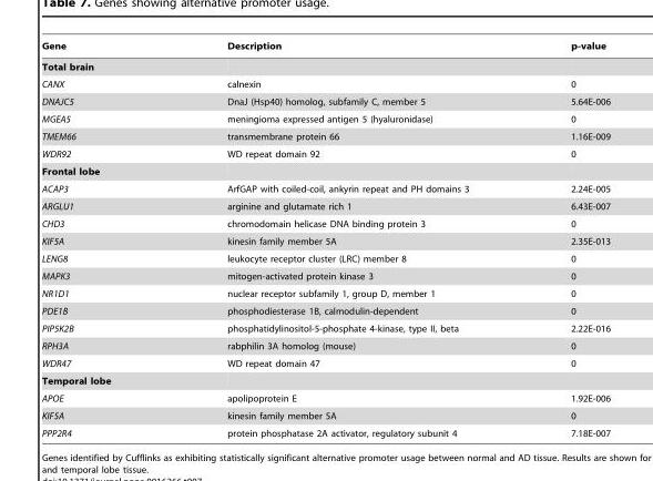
<table><thead><tr><td>Gene</td><td>Description</td><td>p-value</td></tr></thead><tbody><tr><td colspan="3">Total brain</td></tr><tr><td>CANX</td><td>calnexin</td><td>0</td></tr><tr><td>DNAJC5</td><td>DnaJ (Hsp40) homolog, subfamily C, member 5</td><td>5.64E-006</td></tr><tr><td>MGEA5</td><td>meningioma expressed antigen 5 (hyaluronidase)</td><td>0</td></tr><tr><td>TMEM66</td><td>transmembrane protein 66</td><td>1.16E-009</td></tr><tr><td>WDR92</td><td>WD repeat domain 92</td><td>0</td></tr><tr><td colspan="3">Frontal lobe</td></tr><tr><td>ACAP3</td><td>ArfGAP with coiled-coil, ankyrin repeat and PH domains 3</td><td>2.24E-005</td></tr><tr><td>ARGLU1</td><td>arginine and glutamate rich 1</td><td>6.43E-007</td></tr><tr><td>CHD3</td><td>chromodomain helicase DNA binding protein 3</td><td>0</td></tr><tr><td>KIF5A</td><td>kinesin family member 5A</td><td>2.35E-013</td></tr><tr><td>LENG8</td><td>leukocyte receptor cluster (LRC) member 8</td><td>0</td></tr><tr><td>MAPK3</td><td>mitogen-activated protein kinase 3</td><td>0</td></tr><tr><td>NR1D1</td><td>nuclear receptor subfamily 1, group D, member 1</td><td>0</td></tr><tr><td>PDE1B</td><td>phosphodiesterase 1B, calmodulin-dependent</td><td>0</td></tr><tr><td>PIP5K2B</td><td>phosphatidylinositol-5-phosphate 4-kinase, type II, beta</td><td>2.22E-016</td></tr><tr><td>RPH3A</td><td>rabphilin 3A homolog (mouse)</td><td>0</td></tr><tr><td>WDR47</td><td>WD repeat domain 47</td><td>0</td></tr><tr><td colspan="3">Temporal lobe</td></tr><tr><td>APOE</td><td>apolipoprotein E</td><td>1.92E-006</td></tr><tr><td>KIF5A</td><td>kinesin family member 5A</td><td>0</td></tr><tr><td>PPP2R4</td><td>protein phosphatase 2A activator, regulatory subunit 4</td><td>7.18E-007</td></tr></tbody></table>